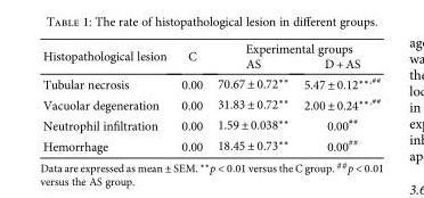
<table><thead><tr><td rowspan="2">Histopathological lesion</td><td rowspan="2">C</td><td colspan="2">Experimental groups</td></tr><tr><td>AS</td><td>D + AS</td></tr></thead><tbody><tr><td>Tubular necrosis</td><td>0.00</td><td>70.67 ± 0.72∗∗</td><td>5.47 ± 0.12<sup>∗∗,##</sup></td></tr><tr><td>Vacuolar degeneration</td><td>0.00</td><td>31.83 ± 0.72∗∗</td><td>2.00 ± 0.24<sup>∗∗,##</sup></td></tr><tr><td>Neutrophil infiltration</td><td>0.00</td><td>1.59 ± 0.038∗∗</td><td>0.00<sup>##</sup></td></tr><tr><td>Hemorrhage</td><td>0.00</td><td>18.45 ± 0.73∗∗</td><td>0.00<sup>##</sup></td></tr></tbody></table>